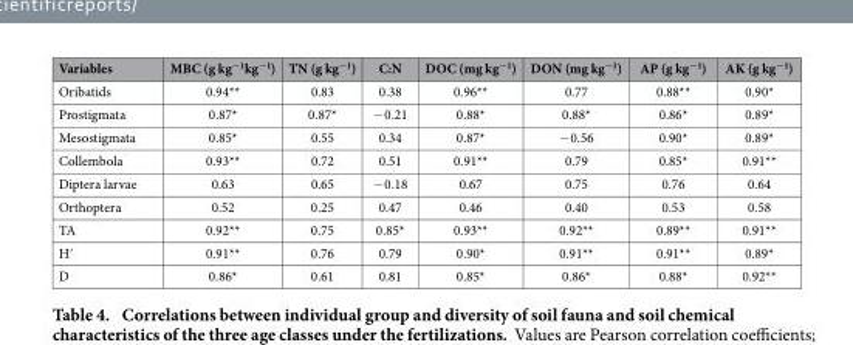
<table><thead><tr><td>Variables</td><td>MBC (g kg<sup>−1</sup>kg<sup>−1</sup>)</td><td>TN (g kg<sup>−1</sup>)</td><td>C:N</td><td>DOC (mg kg<sup>−1</sup>)</td><td>DON (mg kg<sup>−1</sup>)</td><td>AP (g kg<sup>−1</sup>)</td><td>AK (g kg<sup>−1</sup>)</td></tr></thead><tbody><tr><td>Oribatids</td><td>0.94**</td><td>0.83</td><td>0.38</td><td>0.96**</td><td>0.77</td><td>0.88**</td><td>0.90*</td></tr><tr><td>Prostigmata</td><td>0.87*</td><td>0.87*</td><td>− 0.21</td><td>0.88*</td><td>0.88*</td><td>0.86*</td><td>0.89*</td></tr><tr><td>Mesostigmata</td><td>0.85*</td><td>0.55</td><td>0.34</td><td>0.87*</td><td>− 0.56</td><td>0.90*</td><td>0.89*</td></tr><tr><td>Collembola</td><td>0.93**</td><td>0.72</td><td>0.51</td><td>0.91**</td><td>0.79</td><td>0.85*</td><td>0.91**</td></tr><tr><td>Diptera larvae</td><td>0.63</td><td>0.65</td><td>− 0.18</td><td>0.67</td><td>0.75</td><td>0.76</td><td>0.64</td></tr><tr><td>Orthoptera</td><td>0.52</td><td>0.25</td><td>0.47</td><td>0.46</td><td>0.40</td><td>0.53</td><td>0.58</td></tr><tr><td>TA</td><td>0.92**</td><td>0.75</td><td>0.85*</td><td>0.93**</td><td>0.92**</td><td>0.89**</td><td>0.91**</td></tr><tr><td>H′</td><td>0.91**</td><td>0.76</td><td>0.79</td><td>0.90*</td><td>0.91**</td><td>0.91**</td><td>0.89*</td></tr><tr><td>D</td><td>0.86*</td><td>0.61</td><td>0.81</td><td>0.85*</td><td>0.86*</td><td>0.88*</td><td>0.92**</td></tr></tbody></table>